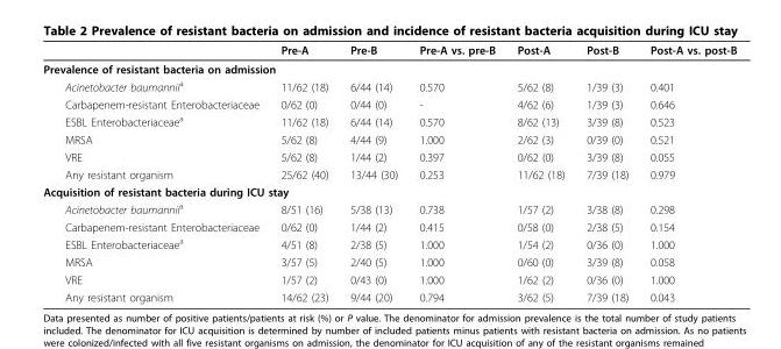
<table><thead><tr><td></td><td>Pre-A</td><td>Pre-B</td><td>Pre-A vs. pre-B</td><td>Post-A</td><td>Post-B</td><td>Post-A vs. post-B</td></tr></thead><tbody><tr><td colspan="7">Prevalence of resistant bacteria on admission</td></tr><tr><td>Acinetobacter baumannii<sup>a</sup></td><td>11/62 (18)</td><td>6/44 (14)</td><td>0.570</td><td>5/62 (8)</td><td>1/39 (3)</td><td>0.401</td></tr><tr><td>Carbapenem-resistant Enterobacteriaceae</td><td>0/62 (0)</td><td>0/44 (0)</td><td>-</td><td>4/62 (6)</td><td>1/39 (3)</td><td>0.646</td></tr><tr><td>ESBL Enterobacteriaceae<sup>a</sup></td><td>11/62 (18)</td><td>6/44 (14)</td><td>0.570</td><td>8/62 (13)</td><td>3/39 (8)</td><td>0.523</td></tr><tr><td>MRSA</td><td>5/62 (8)</td><td>4/44 (9)</td><td>1.000</td><td>2/62 (3)</td><td>0/39 (0)</td><td>0.521</td></tr><tr><td>VRE</td><td>5/62 (8)</td><td>1/44 (2)</td><td>0.397</td><td>0/62 (0)</td><td>3/39 (8)</td><td>0.055</td></tr><tr><td>Any resistant organism</td><td>25/62 (40)</td><td>13/44 (30)</td><td>0.253</td><td>11/62 (18)</td><td>7/39 (18)</td><td>0.979</td></tr><tr><td colspan="7">Acquisition of resistant bacteria during ICU stay</td></tr><tr><td>Acinetobacter baumannii<sup>a</sup></td><td>8/51 (16)</td><td>5/38 (13)</td><td>0.738</td><td>1/57 (2)</td><td>3/38 (8)</td><td>0.298</td></tr><tr><td>Carbapenem-resistant Enterobacteriaceae</td><td>0/62 (0)</td><td>1/44 (2)</td><td>0.415</td><td>0/58 (0)</td><td>2/38 (5)</td><td>0.154</td></tr><tr><td>ESBL Enterobacteriaceae<sup>a</sup></td><td>4/51 (8)</td><td>2/38 (5)</td><td>1.000</td><td>1/54 (2)</td><td>0/36 (0)</td><td>1.000</td></tr><tr><td>MRSA</td><td>3/57 (5)</td><td>2/40 (5)</td><td>1.000</td><td>0/60 (0)</td><td>3/39 (8)</td><td>0.058</td></tr><tr><td>VRE</td><td>1/57 (2)</td><td>0/43 (0)</td><td>1.000</td><td>1/62 (2)</td><td>0/36 (0)</td><td>1.000</td></tr><tr><td>Any resistant organism</td><td>14/62 (23)</td><td>9/44 (20)</td><td>0.794</td><td>3/62 (5)</td><td>7/39 (18)</td><td>0.043</td></tr></tbody></table>